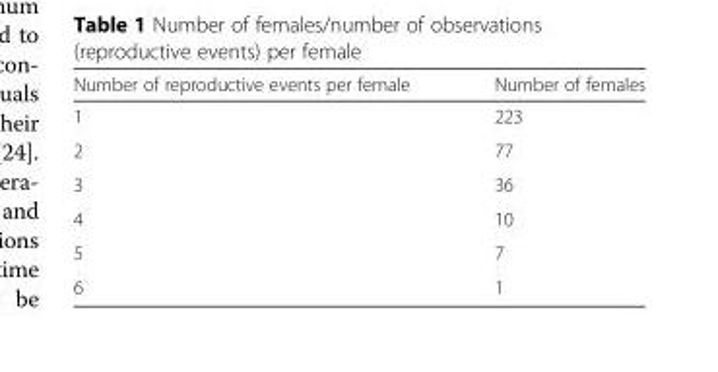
<table><thead><tr><td>Number of reproductive events per female</td><td>Number of females</td></tr></thead><tbody><tr><td>1</td><td>223</td></tr><tr><td>2</td><td>77</td></tr><tr><td>3</td><td>36</td></tr><tr><td>4</td><td>10</td></tr><tr><td>5</td><td>7</td></tr><tr><td>6</td><td>1</td></tr></tbody></table>